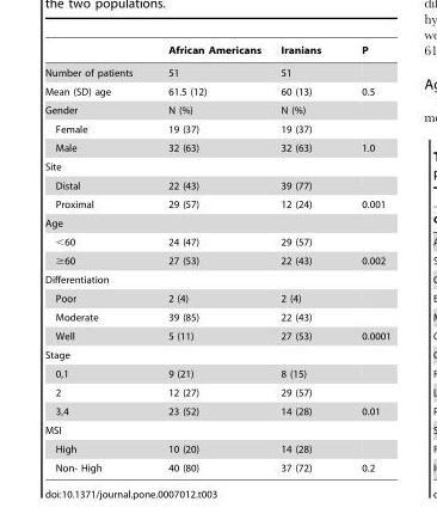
<table><thead><tr><td></td><td>African Americans</td><td>Iranians</td><td>P</td></tr></thead><tbody><tr><td>Number of patients</td><td>51</td><td>51</td><td></td></tr><tr><td>Mean (SD) age</td><td>61.5 (12)</td><td>60 (13)</td><td>0.5</td></tr><tr><td>Gender</td><td>N (%)</td><td>N (%)</td><td></td></tr><tr><td>Female</td><td>19 (37)</td><td>19 (37)</td><td></td></tr><tr><td>Male</td><td>32 (63)</td><td>32 (63)</td><td>1.0</td></tr><tr><td colspan="4">Site</td></tr><tr><td>Distal</td><td>22 (43)</td><td>39 (77)</td><td></td></tr><tr><td>Proximal</td><td>29 (57)</td><td>12 (24)</td><td>0.001</td></tr><tr><td colspan="4">Age</td></tr><tr><td>&lt;60</td><td>24 (47)</td><td>29 (57)</td><td></td></tr><tr><td>≥60</td><td>27 (53)</td><td>22 (43)</td><td>0.002</td></tr><tr><td colspan="4">Differentiation</td></tr><tr><td>Poor</td><td>2 (4)</td><td>2 (4)</td><td></td></tr><tr><td>Moderate</td><td>39 (85)</td><td>22 (43)</td><td></td></tr><tr><td>Well</td><td>5 (11)</td><td>27 (53)</td><td>0.0001</td></tr><tr><td colspan="4">Stage</td></tr><tr><td>0,1</td><td>9 (21)</td><td>8 (15)</td><td></td></tr><tr><td>2</td><td>12 (27)</td><td>29 (57)</td><td></td></tr><tr><td>3,4</td><td>23 (52)</td><td>14 (28)</td><td>0.01</td></tr><tr><td colspan="4">MSI</td></tr><tr><td>High</td><td>10 (20)</td><td>14 (28)</td><td></td></tr><tr><td>Non- High</td><td>40 (80)</td><td>37 (72)</td><td>0.2</td></tr></tbody></table>